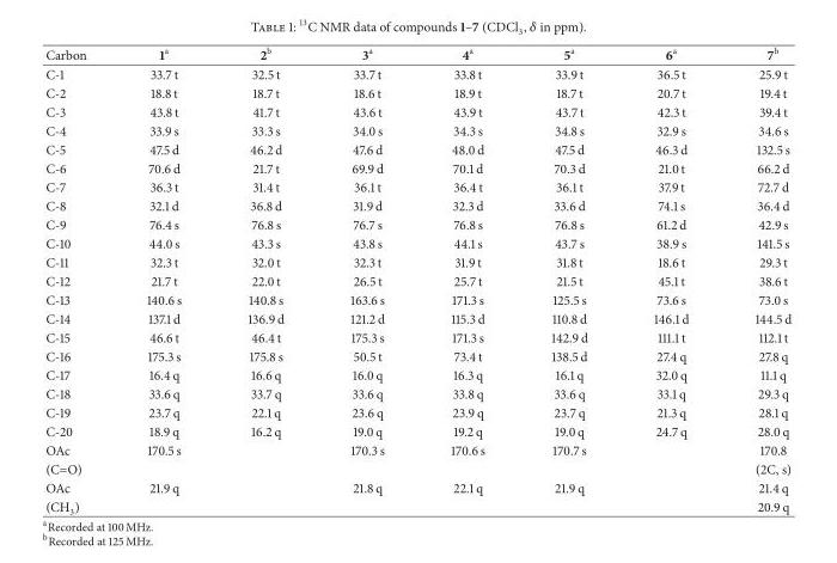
<table><thead><tr><td>Carbon</td><td>1<sup>a</sup></td><td>2<sup>b</sup></td><td>3<sup>a</sup></td><td>4<sup>a</sup></td><td>5<sup>a</sup></td><td>6<sup>a</sup></td><td>7<sup>b</sup></td></tr></thead><tbody><tr><td>C-1</td><td>33.7 t</td><td>32.5 t</td><td>33.7 t</td><td>33.8 t</td><td>33.9 t</td><td>36.5 t</td><td>25.9 t</td></tr><tr><td>C-2</td><td>18.8 t</td><td>18.7 t</td><td>18.6 t</td><td>18.9 t</td><td>18.7 t</td><td>20.7 t</td><td>19.4 t</td></tr><tr><td>C-3</td><td>43.8 t</td><td>41.7 t</td><td>43.6 t</td><td>43.9 t</td><td>43.7 t</td><td>42.3 t</td><td>39.4 t</td></tr><tr><td>C-4</td><td>33.9 s</td><td>33.3 s</td><td>34.0 s</td><td>34.3 s</td><td>34.8 s</td><td>32.9 s</td><td>34.6 s</td></tr><tr><td>C-5</td><td>47.5 d</td><td>46.2 d</td><td>47.6 d</td><td>48.0 d</td><td>47.5 d</td><td>46.3 d</td><td>132.5 s</td></tr><tr><td>C-6</td><td>70.6 d</td><td>21.7 t</td><td>69.9 d</td><td>70.1 d</td><td>70.3 d</td><td>21.0 t</td><td>66.2 d</td></tr><tr><td>C-7</td><td>36.3 t</td><td>31.4 t</td><td>36.1 t</td><td>36.4 t</td><td>36.1 t</td><td>37.9 t</td><td>72.7 d</td></tr><tr><td>C-8</td><td>32.1 d</td><td>36.8 d</td><td>31.9 d</td><td>32.3 d</td><td>33.6 d</td><td>74.1 s</td><td>36.4 d</td></tr><tr><td>C-9</td><td>76.4 s</td><td>76.8 s</td><td>76.7 s</td><td>76.8 s</td><td>76.8 s</td><td>61.2 d</td><td>42.9 s</td></tr><tr><td>C-10</td><td>44.0 s</td><td>43.3 s</td><td>43.8 s</td><td>44.1 s</td><td>43.7 s</td><td>38.9 s</td><td>141.5 s</td></tr><tr><td>C-11</td><td>32.3 t</td><td>32.0 t</td><td>32.3 t</td><td>31.9 t</td><td>31.8 t</td><td>18.6 t</td><td>29.3 t</td></tr><tr><td>C-12</td><td>21.7 t</td><td>22.0 t</td><td>26.5 t</td><td>25.7 t</td><td>21.5 t</td><td>45.1 t</td><td>38.6 t</td></tr><tr><td>C-13</td><td>140.6 s</td><td>140.8 s</td><td>163.6 s</td><td>171.3 s</td><td>125.5 s</td><td>73.6 s</td><td>73.0 s</td></tr><tr><td>C-14</td><td>137.1 d</td><td>136.9 d</td><td>121.2 d</td><td>115.3 d</td><td>110.8 d</td><td>146.1 d</td><td>144.5 d</td></tr><tr><td>C-15</td><td>46.6 t</td><td>46.4 t</td><td>175.3 s</td><td>171.3 s</td><td>142.9 d</td><td>111.1 t</td><td>112.1 t</td></tr><tr><td>C-16</td><td>175.3 s</td><td>175.8 s</td><td>50.5 t</td><td>73.4 t</td><td>138.5 d</td><td>27.4 q</td><td>27.8 q</td></tr><tr><td>C-17</td><td>16.4 q</td><td>16.6 q</td><td>16.0 q</td><td>16.3 q</td><td>16.1 q</td><td>32.0 q</td><td>11.1 q</td></tr><tr><td>C-18</td><td>33.6 q</td><td>33.7 q</td><td>33.6 q</td><td>33.8 q</td><td>33.6 q</td><td>33.1 q</td><td>29.3 q</td></tr><tr><td>C-19</td><td>23.7 q</td><td>22.1 q</td><td>23.6 q</td><td>23.9 q</td><td>23.7 q</td><td>21.3 q</td><td>28.1 q</td></tr><tr><td>C-20</td><td>18.9 q</td><td>16.2 q</td><td>19.0 q</td><td>19.2 q</td><td>19.0 q</td><td>24.7 q</td><td>28.0 q</td></tr><tr><td>OAc</td><td>170.5 s</td><td></td><td>170.3 s</td><td>170.6 s</td><td>170.7 s</td><td></td><td>170.8</td></tr><tr><td>(C=O)</td><td></td><td></td><td></td><td></td><td></td><td></td><td>(2C, s)</td></tr><tr><td>OAc</td><td>21.9 q</td><td></td><td>21.8 q</td><td>22.1 q</td><td>21.9 q</td><td></td><td>21.4 q</td></tr><tr><td>(CH<sub>3</sub>)</td><td></td><td></td><td></td><td></td><td></td><td></td><td>20.9 q</td></tr></tbody></table>